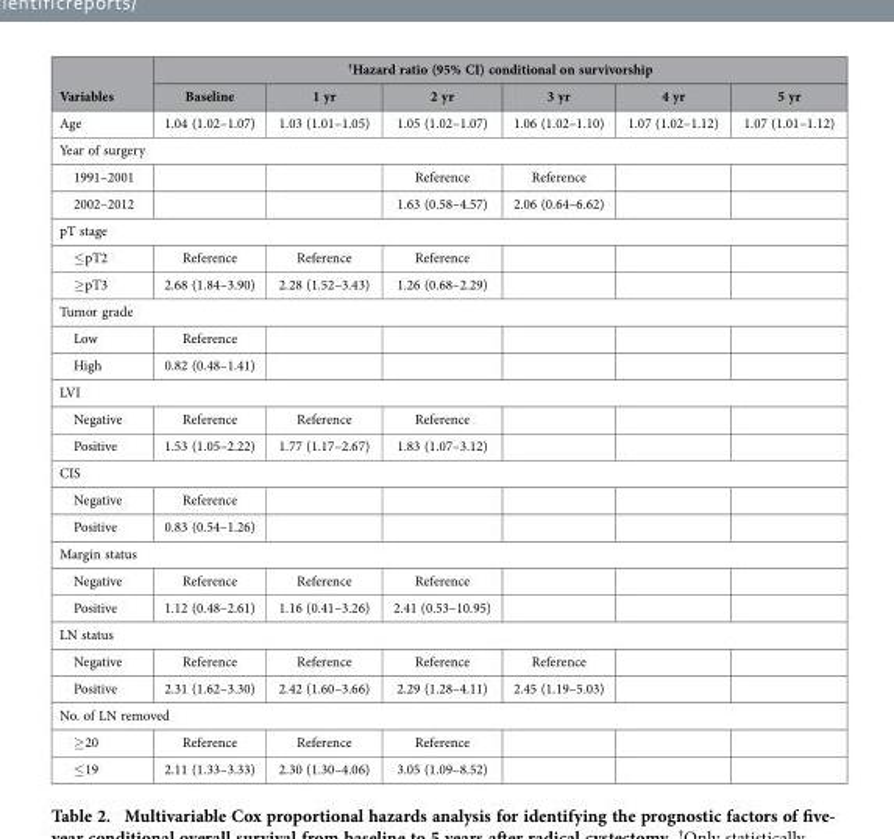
<table><thead><tr><td rowspan="2">Variables</td><td colspan="6">†Hazard ratio (95% CI) conditional on survivorship</td></tr><tr><td>Baseline</td><td>1 yr</td><td>2 yr</td><td>3 yr</td><td>4 yr</td><td>5 yr</td></tr></thead><tbody><tr><td>Age</td><td>1.04 (1.02–1.07)</td><td>1.03 (1.01–1.05)</td><td>1.05 (1.02–1.07)</td><td>1.06 (1.02–1.10)</td><td>1.07 (1.02–1.12)</td><td>1.07 (1.01–1.12)</td></tr><tr><td colspan="7">Year of surgery</td></tr><tr><td>1991–2001</td><td></td><td></td><td>Reference</td><td>Reference</td><td></td><td></td></tr><tr><td>2002–2012</td><td></td><td></td><td>1.63 (0.58–4.57)</td><td>2.06 (0.64–6.62)</td><td></td><td></td></tr><tr><td colspan="7">pT stage</td></tr><tr><td>≤ pT2</td><td>Reference</td><td>Reference</td><td>Reference</td><td></td><td></td><td></td></tr><tr><td>≥ pT3</td><td>2.68 (1.84–3.90)</td><td>2.28 (1.52–3.43)</td><td>1.26 (0.68–2.29)</td><td></td><td></td><td></td></tr><tr><td colspan="7">Tumor grade</td></tr><tr><td>Low</td><td>Reference</td><td></td><td></td><td></td><td></td><td></td></tr><tr><td>High</td><td>0.82 (0.48–1.41)</td><td></td><td></td><td></td><td></td><td></td></tr><tr><td colspan="7">LVI</td></tr><tr><td>Negative</td><td>Reference</td><td>Reference</td><td>Reference</td><td></td><td></td><td></td></tr><tr><td>Positive</td><td>1.53 (1.05–2.22)</td><td>1.77 (1.17–2.67)</td><td>1.83 (1.07–3.12)</td><td></td><td></td><td></td></tr><tr><td colspan="7">CIS</td></tr><tr><td>Negative</td><td>Reference</td><td></td><td></td><td></td><td></td><td></td></tr><tr><td>Positive</td><td>0.83 (0.54–1.26)</td><td></td><td></td><td></td><td></td><td></td></tr><tr><td colspan="7">Margin status</td></tr><tr><td>Negative</td><td>Reference</td><td>Reference</td><td>Reference</td><td></td><td></td><td></td></tr><tr><td>Positive</td><td>1.12 (0.48–2.61)</td><td>1.16 (0.41–3.26)</td><td>2.41 (0.53–10.95)</td><td></td><td></td><td></td></tr><tr><td colspan="7">LN status</td></tr><tr><td>Negative</td><td>Reference</td><td>Reference</td><td>Reference</td><td>Reference</td><td></td><td></td></tr><tr><td>Positive</td><td>2.31 (1.62–3.30)</td><td>2.42 (1.60–3.66)</td><td>2.29 (1.28–4.11)</td><td>2.45 (1.19–5.03)</td><td></td><td></td></tr><tr><td colspan="7">No. of LN removed</td></tr><tr><td>≥ 20</td><td>Reference</td><td>Reference</td><td>Reference</td><td></td><td></td><td></td></tr><tr><td>≤ 19</td><td>2.11 (1.33–3.33)</td><td>2.30 (1.30–4.06)</td><td>3.05 (1.09–8.52)</td><td></td><td></td><td></td></tr></tbody></table>